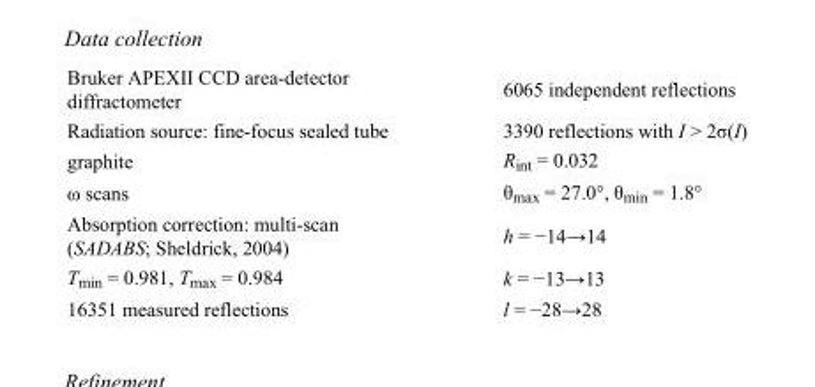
<table><tbody><tr><td>Bruker APEXII CCD area-detector diffractometer</td><td>6065 independent reflections</td></tr><tr><td>Radiation source: fine-focus sealed tube</td><td>3390 reflections with I &gt; 2σ(I)</td></tr><tr><td>graphite</td><td>R<sub>int</sub> = 0.032</td></tr><tr><td>ω scans</td><td>θ<sub>max</sub> = 27.0°, θ<sub>min</sub> = 1.8°</td></tr><tr><td>Absorption correction: multi-scan (SADABS; Sheldrick, 2004)</td><td>h = −14→14</td></tr><tr><td>T<sub>min</sub> = 0.981, T<sub>max</sub> = 0.984</td><td>k = −13→13</td></tr><tr><td>16351 measured reflections</td><td>l = −28→28</td></tr></tbody></table>